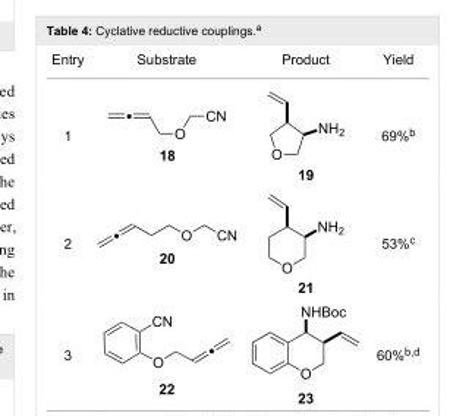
<table><tbody><tr><td>Entry</td><td>Substrate</td><td>Product</td><td>Yield</td></tr><tr><td>1</td><td></td><td></td><td>69%<sup>b</sup></td></tr><tr><td>2</td><td></td><td></td><td>53%<sup>c</sup></td></tr><tr><td>3</td><td></td><td></td><td>60%<sup>b,d</sup></td></tr></tbody></table>